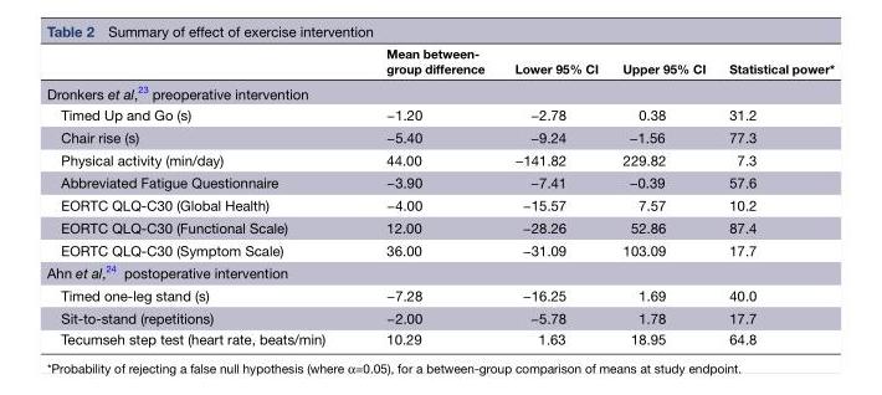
<table><thead><tr><td></td><td>Mean between- group difference</td><td>Lower 95% CI</td><td>Upper 95% CI</td><td>Statistical power*</td></tr></thead><tbody><tr><td colspan="5">Dronkers et al,<sup>23</sup> preoperative intervention</td></tr><tr><td>Timed Up and Go (s)</td><td>−1.20</td><td>−2.78</td><td>0.38</td><td>31.2</td></tr><tr><td>Chair rise (s)</td><td>−5.40</td><td>−9.24</td><td>−1.56</td><td>77.3</td></tr><tr><td>Physical activity (min/day)</td><td>44.00</td><td>−141.82</td><td>229.82</td><td>7.3</td></tr><tr><td>Abbreviated Fatigue Questionnaire</td><td>−3.90</td><td>−7.41</td><td>−0.39</td><td>57.6</td></tr><tr><td>EORTC QLQ-C30 (Global Health)</td><td>−4.00</td><td>−15.57</td><td>7.57</td><td>10.2</td></tr><tr><td>EORTC QLQ-C30 (Functional Scale)</td><td>12.00</td><td>−28.26</td><td>52.86</td><td>87.4</td></tr><tr><td>EORTC QLQ-C30 (Symptom Scale)</td><td>36.00</td><td>−31.09</td><td>103.09</td><td>17.7</td></tr><tr><td colspan="5">Ahn et al,<sup>24</sup> postoperative intervention</td></tr><tr><td>Timed one-leg stand (s)</td><td>−7.28</td><td>−16.25</td><td>1.69</td><td>40.0</td></tr><tr><td>Sit-to-stand (repetitions)</td><td>−2.00</td><td>−5.78</td><td>1.78</td><td>17.7</td></tr><tr><td>Tecumseh step test (heart rate, beats/min)</td><td>10.29</td><td>1.63</td><td>18.95</td><td>64.8</td></tr></tbody></table>